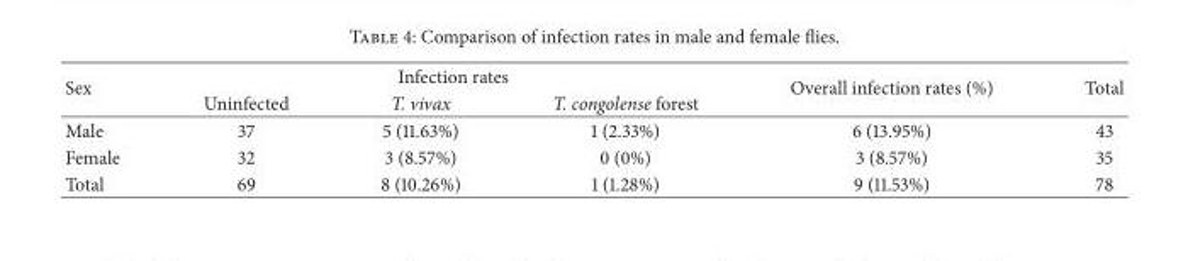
<table><thead><tr><td rowspan="2">Sex</td><td colspan="3">Infection rates</td><td rowspan="2">Overall infection rates (%)</td><td rowspan="2">Total</td></tr><tr><td>Uninfected</td><td>T. vivax</td><td>T. congolense forest</td></tr></thead><tbody><tr><td>Male</td><td>37</td><td>5 (11.63%)</td><td>1 (2.33%)</td><td>6 (13.95%)</td><td>43</td></tr><tr><td>Female</td><td>32</td><td>3 (8.57%)</td><td>0 (0%)</td><td>3 (8.57%)</td><td>35</td></tr><tr><td>Total</td><td>69</td><td>8 (10.26%)</td><td>1 (1.28%)</td><td>9 (11.53%)</td><td>78</td></tr></tbody></table>